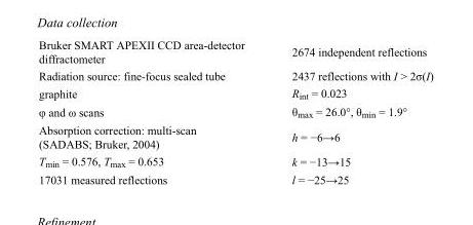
<table><tbody><tr><td>Bruker SMART APEXII CCD area-detector diffractometer</td><td>2674 independent reflections</td></tr><tr><td>Radiation source: fine-focus sealed tube</td><td>2437 reflections with I &gt; 2σ(I)</td></tr><tr><td>graphite</td><td>R<sub>int</sub> = 0.023</td></tr><tr><td>φ and ω scans</td><td>θ<sub>max</sub> = 26.0°, θ<sub>min</sub> = 1.9°</td></tr><tr><td>Absorption correction: multi-scan (SADABS; Bruker, 2004)</td><td>h = −6→6</td></tr><tr><td>T<sub>min</sub> = 0.576, T<sub>max</sub> = 0.653</td><td>k = −13→15</td></tr><tr><td>17031 measured reflections</td><td>l = −25→25</td></tr></tbody></table>